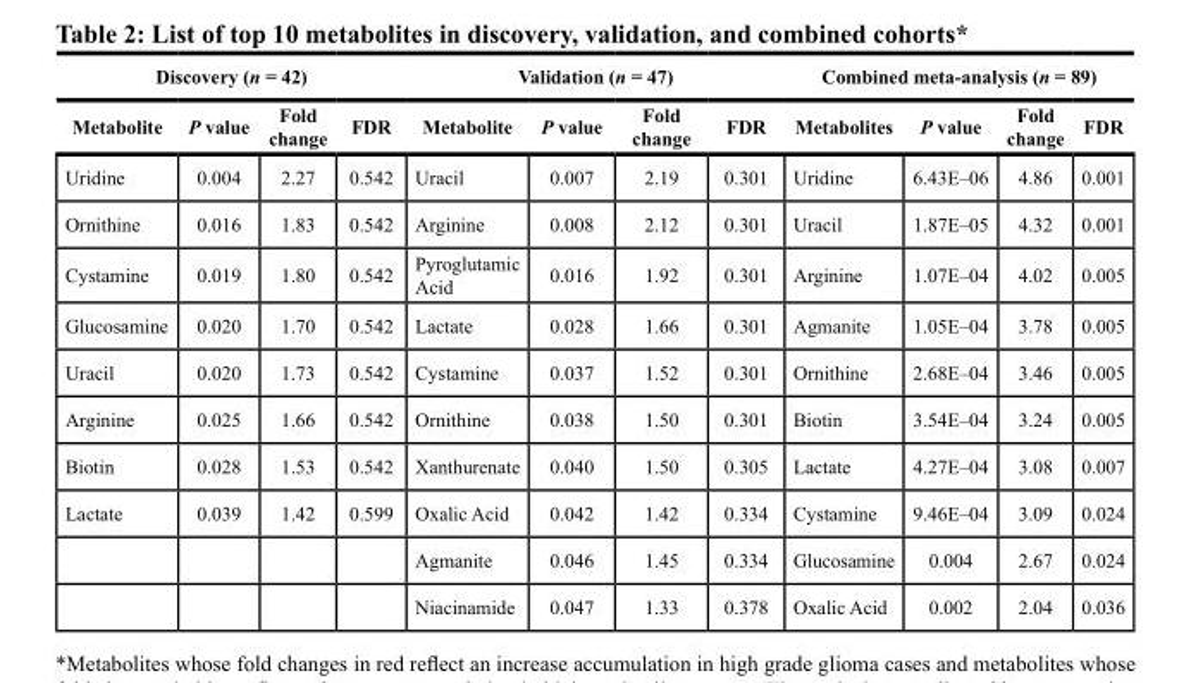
<table><thead><tr><td colspan="4">Discovery (n = 42)</td><td colspan="4">Validation (n = 47)</td><td colspan="4">Combined meta-analysis (n = 89)</td></tr><tr><td>Metabolite</td><td>P value</td><td>Fold change</td><td>FDR</td><td>Metabolite</td><td>P value</td><td>Fold change</td><td>FDR</td><td>Metabolites</td><td>P value</td><td>Fold change</td><td>FDR</td></tr></thead><tbody><tr><td>Uridine</td><td>0.004</td><td>2.27</td><td>0.542</td><td>Uracil</td><td>0.007</td><td>2.19</td><td>0.301</td><td>Uridine</td><td>6.43E–06</td><td>4.86</td><td>0.001</td></tr><tr><td>Ornithine</td><td>0.016</td><td>1.83</td><td>0.542</td><td>Arginine</td><td>0.008</td><td>2.12</td><td>0.301</td><td>Uracil</td><td>1.87E–05</td><td>4.32</td><td>0.001</td></tr><tr><td>Cystamine</td><td>0.019</td><td>1.80</td><td>0.542</td><td>Pyroglutamic Acid</td><td>0.016</td><td>1.92</td><td>0.301</td><td>Arginine</td><td>1.07E–04</td><td>4.02</td><td>0.005</td></tr><tr><td>Glucosamine</td><td>0.020</td><td>1.70</td><td>0.542</td><td>Lactate</td><td>0.028</td><td>1.66</td><td>0.301</td><td>Agmanite</td><td>1.05E–04</td><td>3.78</td><td>0.005</td></tr><tr><td>Uracil</td><td>0.020</td><td>1.73</td><td>0.542</td><td>Cystamine</td><td>0.037</td><td>1.52</td><td>0.301</td><td>Ornithine</td><td>2.68E–04</td><td>3.46</td><td>0.005</td></tr><tr><td>Arginine</td><td>0.025</td><td>1.66</td><td>0.542</td><td>Ornithine</td><td>0.038</td><td>1.50</td><td>0.301</td><td>Biotin</td><td>3.54E–04</td><td>3.24</td><td>0.005</td></tr><tr><td>Biotin</td><td>0.028</td><td>1.53</td><td>0.542</td><td>Xanthurenate</td><td>0.040</td><td>1.50</td><td>0.305</td><td>Lactate</td><td>4.27E–04</td><td>3.08</td><td>0.007</td></tr><tr><td rowspan="3">Lactate</td><td>0.039</td><td>1.42</td><td>0.599</td><td>Oxalic Acid</td><td>0.042</td><td>1.42</td><td>0.334</td><td>Cystamine</td><td>9.46E–04</td><td>3.09</td><td>0.024</td></tr><tr><td></td><td></td><td></td><td>Agmanite</td><td>0.046</td><td>1.45</td><td>0.334</td><td>Glucosamine</td><td>0.004</td><td>2.67</td><td>0.024</td></tr><tr><td></td><td></td><td></td><td>Niacinamide</td><td>0.047</td><td>1.33</td><td>0.378</td><td>Oxalic Acid</td><td>0.002</td><td>2.04</td><td>0.036</td></tr></tbody></table>